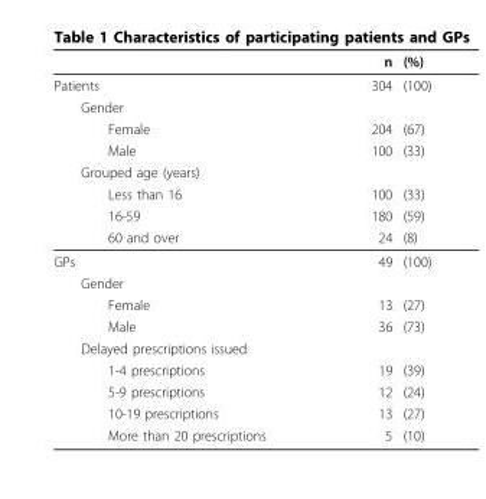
<table><thead><tr><td></td><td>n</td><td>(%)</td></tr></thead><tbody><tr><td>Patients</td><td>304</td><td>(100)</td></tr><tr><td colspan="3">Gender</td></tr><tr><td>Female</td><td>204</td><td>(67)</td></tr><tr><td>Male</td><td>100</td><td>(33)</td></tr><tr><td colspan="3">Grouped age (years)</td></tr><tr><td>Less than 16</td><td>100</td><td>(33)</td></tr><tr><td>16-59</td><td>180</td><td>(59)</td></tr><tr><td>60 and over</td><td>24</td><td>(8)</td></tr><tr><td>GPs</td><td>49</td><td>(100)</td></tr><tr><td colspan="3">Gender</td></tr><tr><td>Female</td><td>13</td><td>(27)</td></tr><tr><td>Male</td><td>36</td><td>(73)</td></tr><tr><td colspan="3">Delayed prescriptions issued</td></tr><tr><td>1-4 prescriptions</td><td>19</td><td>(39)</td></tr><tr><td>5-9 prescriptions</td><td>12</td><td>(24)</td></tr><tr><td>10-19 prescriptions</td><td>13</td><td>(27)</td></tr><tr><td>More than 20 prescriptions</td><td>5</td><td>(10)</td></tr></tbody></table>